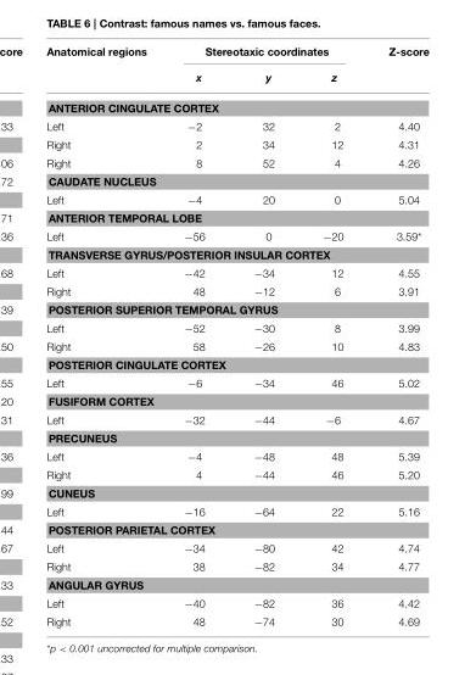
<table><thead><tr><td rowspan="2">Anatomical regions</td><td colspan="3">Stereotaxic coordinates</td><td rowspan="2">Z-score</td></tr><tr><td>x</td><td>y</td><td>z</td></tr></thead><tbody><tr><td colspan="5">ANTERIOR CINGULATE CORTEX</td></tr><tr><td>Left</td><td>−2</td><td>32</td><td>2</td><td>4.40</td></tr><tr><td>Right</td><td>2</td><td>34</td><td>12</td><td>4.31</td></tr><tr><td>Right</td><td>8</td><td>52</td><td>4</td><td>4.26</td></tr><tr><td colspan="5">CAUDATE NUCLEUS</td></tr><tr><td>Left</td><td>−4</td><td>20</td><td>0</td><td>5.04</td></tr><tr><td colspan="5">ANTERIOR TEMPORAL LOBE</td></tr><tr><td>Left</td><td>−56</td><td>0</td><td>−20</td><td>3.59*</td></tr><tr><td colspan="5">TRANSVERSE GYRUS/POSTERIOR INSULAR CORTEX</td></tr><tr><td>Left</td><td>−42</td><td>−34</td><td>12</td><td>4.55</td></tr><tr><td>Right</td><td>48</td><td>−12</td><td>6</td><td>3.91</td></tr><tr><td colspan="5">POSTERIOR SUPERIOR TEMPORAL GYRUS</td></tr><tr><td>Left</td><td>−52</td><td>−30</td><td>8</td><td>3.99</td></tr><tr><td>Right</td><td>58</td><td>−26</td><td>10</td><td>4.83</td></tr><tr><td colspan="5">POSTERIOR CINGULATE CORTEX</td></tr><tr><td>Left</td><td>−6</td><td>−34</td><td>46</td><td>5.02</td></tr><tr><td colspan="5">FUSIFORM CORTEX</td></tr><tr><td>Left</td><td>−32</td><td>−44</td><td>−6</td><td>4.67</td></tr><tr><td colspan="5">PRECUNEUS</td></tr><tr><td>Left</td><td>−4</td><td>−48</td><td>48</td><td>5.39</td></tr><tr><td>Right</td><td>4</td><td>−44</td><td>46</td><td>5.20</td></tr><tr><td colspan="5">CUNEUS</td></tr><tr><td>Left</td><td>−16</td><td>−64</td><td>22</td><td>5.16</td></tr><tr><td colspan="5">POSTERIOR PARIETAL CORTEX</td></tr><tr><td>Left</td><td>−34</td><td>−80</td><td>42</td><td>4.74</td></tr><tr><td>Right</td><td>38</td><td>−82</td><td>34</td><td>4.77</td></tr><tr><td colspan="5">ANGULAR GYRUS</td></tr><tr><td>Left</td><td>−40</td><td>−82</td><td>36</td><td>4.42</td></tr><tr><td>Right</td><td>48</td><td>−74</td><td>30</td><td>4.69</td></tr></tbody></table>